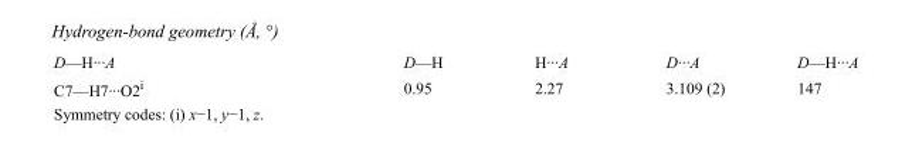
<table><tbody><tr><td>D—H···A</td><td>D—H</td><td>H···A</td><td>D···A</td><td>D—H···A</td></tr><tr><td>C7—H7···O2<sup>i</sup></td><td>0.95</td><td>2.27</td><td>3.109 (2)</td><td>147</td></tr></tbody></table>